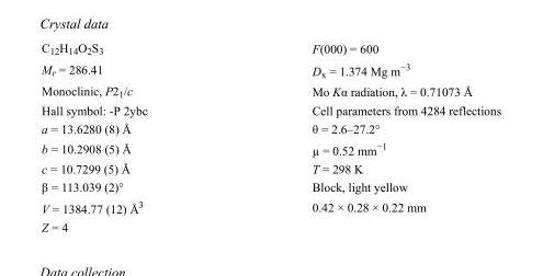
<table><tbody><tr><td>C<sub>12</sub>H<sub>14</sub>O<sub>2</sub>S<sub>3</sub></td><td>F(000) = 600</td></tr><tr><td>M<sub>r</sub> = 286.41</td><td>D<sub>x</sub> = 1.374 Mg m<sup>−3</sup></td></tr><tr><td>Monoclinic, P2<sub>1</sub>/c</td><td>Mo Kα radiation, λ = 0.71073 Å</td></tr><tr><td>Hall symbol: -P 2ybc</td><td>Cell parameters from 4284 reflections</td></tr><tr><td>a = 13.6280 (8) Å</td><td>θ = 2.6–27.2°</td></tr><tr><td>b = 10.2908 (5) Å</td><td>µ = 0.52 mm<sup>−1</sup></td></tr><tr><td>c = 10.7299 (5) Å</td><td>T = 298 K</td></tr><tr><td>β = 113.039 (2)°</td><td>Block, light yellow</td></tr><tr><td>V = 1384.77 (12) Å<sup>3</sup></td><td>0.42 × 0.28 × 0.22 mm</td></tr><tr><td>Z = 4</td><td></td></tr></tbody></table>